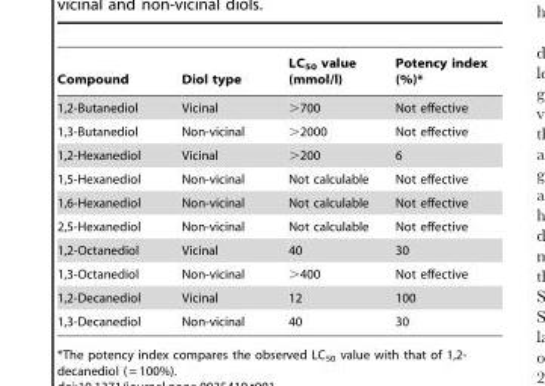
<table><thead><tr><td>Compound</td><td>Diol type</td><td>LC<sub>50</sub> value (mmol/l)</td><td>Potency index (%)*</td></tr></thead><tbody><tr><td>1,2-Butanediol</td><td>Vicinal</td><td>&gt;700</td><td>Not effective</td></tr><tr><td>1,3-Butanediol</td><td>Non-vicinal</td><td>&gt;2000</td><td>Not effective</td></tr><tr><td>1,2-Hexanediol</td><td>Vicinal</td><td>&gt;200</td><td>6</td></tr><tr><td>1,5-Hexanediol</td><td>Non-vicinal</td><td>Not calculable</td><td>Not effective</td></tr><tr><td>1,6-Hexanediol</td><td>Non-vicinal</td><td>Not calculable</td><td>Not effective</td></tr><tr><td>2,5-Hexanediol</td><td>Non-vicinal</td><td>Not calculable</td><td>Not effective</td></tr><tr><td>1,2-Octanediol</td><td>Vicinal</td><td>40</td><td>30</td></tr><tr><td>1,3-Octanediol</td><td>Non-vicinal</td><td>&gt;400</td><td>Not effective</td></tr><tr><td>1,2-Decanediol</td><td>Vicinal</td><td>12</td><td>100</td></tr><tr><td>1,3-Decanediol</td><td>Non-vicinal</td><td>40</td><td>30</td></tr></tbody></table>